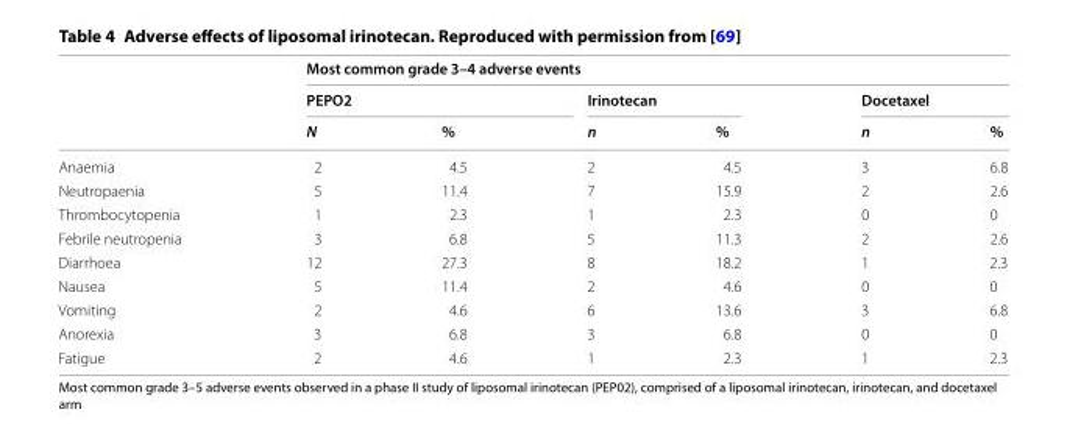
<table><thead><tr><td rowspan="3"></td><td colspan="6">Most common grade 3–4 adverse events</td></tr><tr><td colspan="2">PEPO2</td><td colspan="2">Irinotecan</td><td colspan="2">Docetaxel</td></tr><tr><td>N</td><td>%</td><td>n</td><td>%</td><td>n</td><td>%</td></tr></thead><tbody><tr><td>Anaemia</td><td>2</td><td>4.5</td><td>2</td><td>4.5</td><td>3</td><td>6.8</td></tr><tr><td>Neutropaenia</td><td>5</td><td>11.4</td><td>7</td><td>15.9</td><td>2</td><td>2.6</td></tr><tr><td>Thrombocytopenia</td><td>1</td><td>2.3</td><td>1</td><td>2.3</td><td>0</td><td>0</td></tr><tr><td>Febrile neutropenia</td><td>3</td><td>6.8</td><td>5</td><td>11.3</td><td>2</td><td>2.6</td></tr><tr><td>Diarrhoea</td><td>12</td><td>27.3</td><td>8</td><td>18.2</td><td>1</td><td>2.3</td></tr><tr><td>Nausea</td><td>5</td><td>11.4</td><td>2</td><td>4.6</td><td>0</td><td>0</td></tr><tr><td>Vomiting</td><td>2</td><td>4.6</td><td>6</td><td>13.6</td><td>3</td><td>6.8</td></tr><tr><td>Anorexia</td><td>3</td><td>6.8</td><td>3</td><td>6.8</td><td>0</td><td>0</td></tr><tr><td>Fatigue</td><td>2</td><td>4.6</td><td>1</td><td>2.3</td><td>1</td><td>2.3</td></tr></tbody></table>